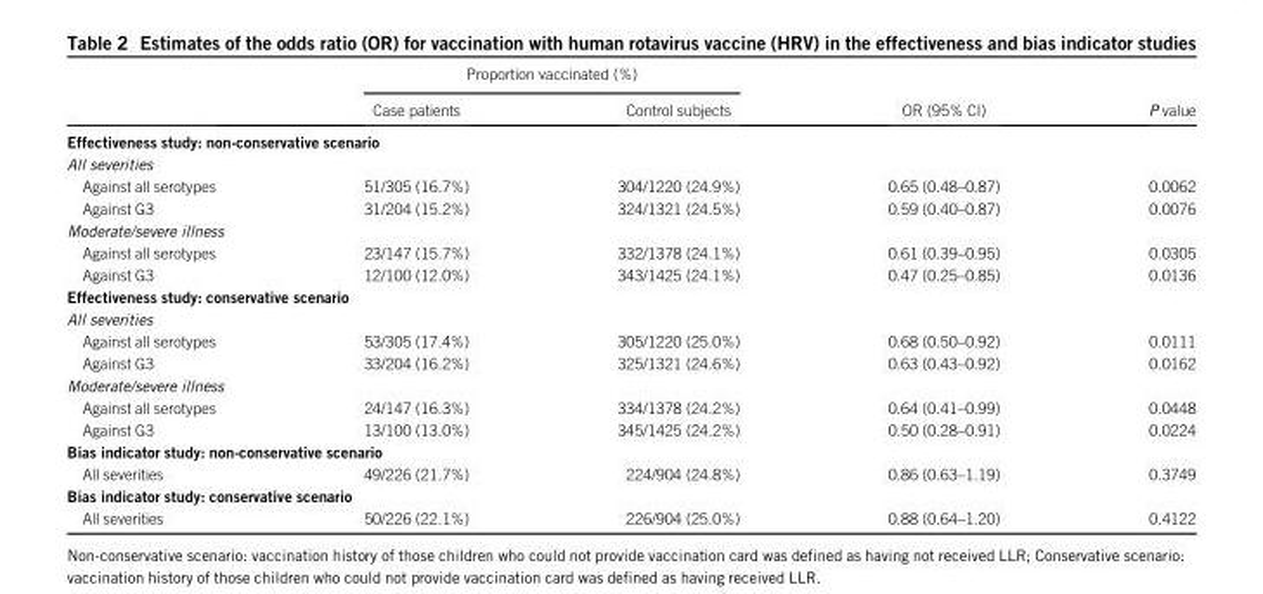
<table><thead><tr><td rowspan="2"></td><td colspan="2">Proportion vaccinated (%)</td><td rowspan="2">OR (95% CI)</td><td rowspan="2">P value</td></tr><tr><td>Case patients</td><td>Control subjects</td></tr></thead><tbody><tr><td colspan="5">Effectiveness study: non-conservative scenario</td></tr><tr><td colspan="5">All severities</td></tr><tr><td>Against all serotypes</td><td>51/305 (16.7%)</td><td>304/1220 (24.9%)</td><td>0.65 (0.48–0.87)</td><td>0.0062</td></tr><tr><td>Against G3</td><td>31/204 (15.2%)</td><td>324/1321 (24.5%)</td><td>0.59 (0.40–0.87)</td><td>0.0076</td></tr><tr><td colspan="5">Moderate/severe illness</td></tr><tr><td>Against all serotypes</td><td>23/147 (15.7%)</td><td>332/1378 (24.1%)</td><td>0.61 (0.39–0.95)</td><td>0.0305</td></tr><tr><td>Against G3</td><td>12/100 (12.0%)</td><td>343/1425 (24.1%)</td><td>0.47 (0.25–0.85)</td><td>0.0136</td></tr><tr><td colspan="5">Effectiveness study: conservative scenario</td></tr><tr><td colspan="5">All severities</td></tr><tr><td>Against all serotypes</td><td>53/305 (17.4%)</td><td>305/1220 (25.0%)</td><td>0.68 (0.50–0.92)</td><td>0.0111</td></tr><tr><td>Against G3</td><td>33/204 (16.2%)</td><td>325/1321 (24.6%)</td><td>0.63 (0.43–0.92)</td><td>0.0162</td></tr><tr><td colspan="5">Moderate/severe illness</td></tr><tr><td>Against all serotypes</td><td>24/147 (16.3%)</td><td>334/1378 (24.2%)</td><td>0.64 (0.41–0.99)</td><td>0.0448</td></tr><tr><td>Against G3</td><td>13/100 (13.0%)</td><td>345/1425 (24.2%)</td><td>0.50 (0.28–0.91)</td><td>0.0224</td></tr><tr><td colspan="5">Bias indicator study: non-conservative scenario</td></tr><tr><td>All severities</td><td>49/226 (21.7%)</td><td>224/904 (24.8%)</td><td>0.86 (0.63–1.19)</td><td>0.3749</td></tr><tr><td colspan="5">Bias indicator study: conservative scenario</td></tr><tr><td>All severities</td><td>50/226 (22.1%)</td><td>226/904 (25.0%)</td><td>0.88 (0.64–1.20)</td><td>0.4122</td></tr></tbody></table>